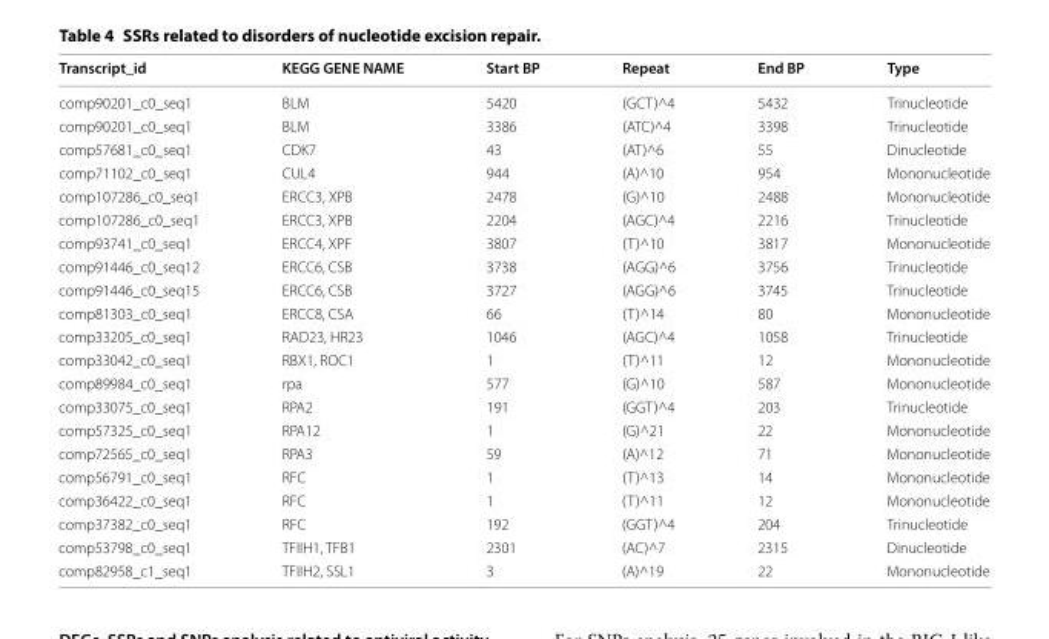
<table><thead><tr><td>Transcript_id</td><td>KEGG GENE NAME</td><td>Start BP</td><td>Repeat</td><td>End BP</td><td>Type</td></tr></thead><tbody><tr><td>comp90201_c0_seq1</td><td>BLM</td><td>5420</td><td>(GCT)^4</td><td>5432</td><td>Trinucleotide</td></tr><tr><td>comp90201_c0_seq1</td><td>BLM</td><td>3386</td><td>(ATC)^4</td><td>3398</td><td>Trinucleotide</td></tr><tr><td>comp57681_c0_seq1</td><td>CDK7</td><td>43</td><td>(AT)^6</td><td>55</td><td>Dinucleotide</td></tr><tr><td>comp71102_c0_seq1</td><td>CUL4</td><td>944</td><td>(A)^10</td><td>954</td><td>Mononucleotide</td></tr><tr><td>comp107286_c0_seq1</td><td>ERCC3, XPB</td><td>2478</td><td>(G)^10</td><td>2488</td><td>Mononucleotide</td></tr><tr><td>comp107286_c0_seq1</td><td>ERCC3, XPB</td><td>2204</td><td>(AGC)^4</td><td>2216</td><td>Trinucleotide</td></tr><tr><td>comp93741_c0_seq1</td><td>ERCC4, XPF</td><td>3807</td><td>(T)^10</td><td>3817</td><td>Mononucleotide</td></tr><tr><td>comp91446_c0_seq12</td><td>ERCC6, CSB</td><td>3738</td><td>(AGG)^6</td><td>3756</td><td>Trinucleotide</td></tr><tr><td>comp91446_c0_seq15</td><td>ERCC6, CSB</td><td>3727</td><td>(AGG)^6</td><td>3745</td><td>Trinucleotide</td></tr><tr><td>comp81303_c0_seq1</td><td>ERCC8, CSA</td><td>66</td><td>(T)^14</td><td>80</td><td>Mononucleotide</td></tr><tr><td>comp33205_c0_seq1</td><td>RAD23, HR23</td><td>1046</td><td>(AGC)^4</td><td>1058</td><td>Trinucleotide</td></tr><tr><td>comp33042_c0_seq1</td><td>RBX1, ROC1</td><td>1</td><td>(T)^11</td><td>12</td><td>Mononucleotide</td></tr><tr><td>comp89984_c0_seq1</td><td>rpa</td><td>577</td><td>(G)^10</td><td>587</td><td>Mononucleotide</td></tr><tr><td>comp33075_c0_seq1</td><td>RPA2</td><td>191</td><td>(GGT)^4</td><td>203</td><td>Trinucleotide</td></tr><tr><td>comp57325_c0_seq1</td><td>RPA12</td><td>1</td><td>(G)^21</td><td>22</td><td>Mononucleotide</td></tr><tr><td>comp72565_c0_seq1</td><td>RPA3</td><td>59</td><td>(A)^12</td><td>71</td><td>Mononucleotide</td></tr><tr><td>comp56791_c0_seq1</td><td>RFC</td><td>1</td><td>(T)^13</td><td>14</td><td>Mononucleotide</td></tr><tr><td>comp36422_c0_seq1</td><td>RFC</td><td>1</td><td>(T)^11</td><td>12</td><td>Mononucleotide</td></tr><tr><td>comp37382_c0_seq1</td><td>RFC</td><td>192</td><td>(GGT)^4</td><td>204</td><td>Trinucleotide</td></tr><tr><td>comp53798_c0_seq1</td><td>TFIIH1, TFB1</td><td>2301</td><td>(AC)^7</td><td>2315</td><td>Dinucleotide</td></tr><tr><td>comp82958_c1_seq1</td><td>TFIIH2, SSL1</td><td>3</td><td>(A)^19</td><td>22</td><td>Mononucleotide</td></tr></tbody></table>